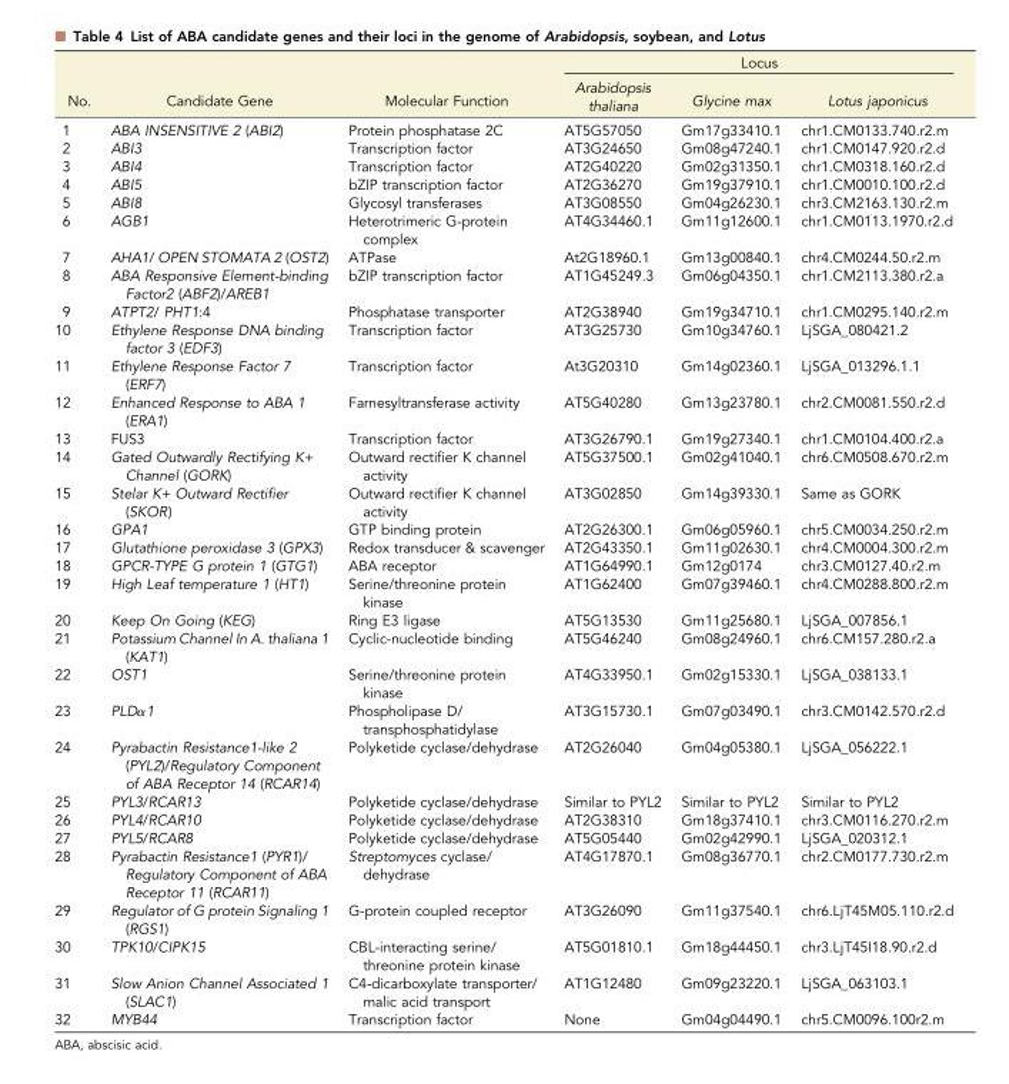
<table><thead><tr><td rowspan="2">No.</td><td rowspan="2">Candidate Gene</td><td rowspan="2">Molecular Function</td><td colspan="3">Locus</td></tr><tr><td>Arabidopsis thaliana</td><td>Glycine max</td><td>Lotus japonicus</td></tr></thead><tbody><tr><td>1</td><td>ABA INSENSITIVE 2 (ABI2)</td><td>Protein phosphatase 2C</td><td>AT5G57050</td><td>Gm17g33410.1</td><td>chr1.CM0133.740.r2.m</td></tr><tr><td>2</td><td>ABI3</td><td>Transcription factor</td><td>AT3G24650</td><td>Gm08g47240.1</td><td>chr1.CM0147.920.r2.d</td></tr><tr><td>3</td><td>ABI4</td><td>Transcription factor</td><td>AT2G40220</td><td>Gm02g31350.1</td><td>chr1.CM0318.160.r2.d</td></tr><tr><td>4</td><td>ABI5</td><td>bZIP transcription factor</td><td>AT2G36270</td><td>Gm19g37910.1</td><td>chr1.CM0010.100.r2.d</td></tr><tr><td>5</td><td>ABI8</td><td>Glycosyl transferases</td><td>AT3G08550</td><td>Gm04g26230.1</td><td>chr3.CM2163.130.r2.m</td></tr><tr><td>6</td><td>AGB1</td><td>Heterotrimeric G-protein complex</td><td>AT4G34460.1</td><td>Gm11g12600.1</td><td>chr1.CM0113.1970.r2.d</td></tr><tr><td>7</td><td>AHA1/ OPEN STOMATA 2 (OST2)</td><td>ATPase</td><td>At2G18960.1</td><td>Gm13g00840.1</td><td>chr4.CM0244.50.r2.m</td></tr><tr><td>8</td><td>ABA Responsive Element-binding Factor2 (ABF2)/AREB1</td><td>bZIP transcription factor</td><td>AT1G45249.3</td><td>Gm06g04350.1</td><td>chr1.CM2113.380.r2.a</td></tr><tr><td>9</td><td>ATPT2/ PHT1:4</td><td>Phosphatase transporter</td><td>AT2G38940</td><td>Gm19g34710.1</td><td>chr1.CM0295.140.r2.m</td></tr><tr><td>10</td><td>Ethylene Response DNA binding factor 3 (EDF3)</td><td>Transcription factor</td><td>AT3G25730</td><td>Gm10g34760.1</td><td>LjSGA_080421.2</td></tr><tr><td>11</td><td>Ethylene Response Factor 7 (ERF7)</td><td>Transcription factor</td><td>At3G20310</td><td>Gm14g02360.1</td><td>LjSGA_013296.1.1</td></tr><tr><td>12</td><td>Enhanced Response to ABA 1 (ERA1)</td><td>Farnesyltransferase activity</td><td>AT5G40280</td><td>Gm13g23780.1</td><td>chr2.CM0081.550.r2.d</td></tr><tr><td>13</td><td>FUS3</td><td>Transcription factor</td><td>AT3G26790.1</td><td>Gm19g27340.1</td><td>chr1.CM0104.400.r2.a</td></tr><tr><td>14</td><td>Gated Outwardly Rectifying K+ Channel (GORK)</td><td>Outward rectifier K channel activity</td><td>AT5G37500.1</td><td>Gm02g41040.1</td><td>chr6.CM0508.670.r2.m</td></tr><tr><td>15</td><td>Stelar K+ Outward Rectifier (SKOR)</td><td>Outward rectifier K channel activity</td><td>AT3G02850</td><td>Gm14g39330.1</td><td>Same as GORK</td></tr><tr><td>16</td><td>GPA1</td><td>GTP binding protein</td><td>AT2G26300.1</td><td>Gm06g05960.1</td><td>chr5.CM0034.250.r2.m</td></tr><tr><td>17</td><td>Glutathione peroxidase 3 (GPX3)</td><td>Redox transducer &amp; scavenger</td><td>AT2G43350.1</td><td>Gm11g02630.1</td><td>chr4.CM0004.300.r2.m</td></tr><tr><td>18</td><td>GPCR-TYPE G protein 1 (GTG1)</td><td>ABA receptor</td><td>AT1G64990.1</td><td>Gm12g0174</td><td>chr3.CM0127.40.r2.m</td></tr><tr><td>19</td><td>High Leaf temperature 1 (HT1)</td><td>Serine/threonine protein kinase</td><td>AT1G62400</td><td>Gm07g39460.1</td><td>chr4.CM0288.800.r2.m</td></tr><tr><td>20</td><td>Keep On Going (KEG)</td><td>Ring E3 ligase</td><td>AT5G13530</td><td>Gm11g25680.1</td><td>LjSGA_007856.1</td></tr><tr><td>21</td><td>Potassium Channel In A. thaliana 1 (KAT1)</td><td>Cyclic-nucleotide binding</td><td>AT5G46240</td><td>Gm08g24960.1</td><td>chr6.CM157.280.r2.a</td></tr><tr><td>22</td><td>OST1</td><td>Serine/threonine protein kinase</td><td>AT4G33950.1</td><td>Gm02g15330.1</td><td>LjSGA_038133.1</td></tr><tr><td>23</td><td>PLDα1</td><td>Phospholipase D/ transphosphatidylase</td><td>AT3G15730.1</td><td>Gm07g03490.1</td><td>chr3.CM0142.570.r2.d</td></tr><tr><td>24</td><td>Pyrabactin Resistance1-like 2 (PYL2)/Regulatory Component of ABA Receptor 14 (RCAR14)</td><td>Polyketide cyclase/dehydrase</td><td>AT2G26040</td><td>Gm04g05380.1</td><td>LjSGA_056222.1</td></tr><tr><td>25</td><td>PYL3/RCAR13</td><td>Polyketide cyclase/dehydrase</td><td>Similar to PYL2</td><td>Similar to PYL2</td><td>Similar to PYL2</td></tr><tr><td>26</td><td>PYL4/RCAR10</td><td>Polyketide cyclase/dehydrase</td><td>AT2G38310</td><td>Gm18g37410.1</td><td>chr3.CM0116.270.r2.m</td></tr><tr><td>27</td><td>PYL5/RCAR8</td><td>Polyketide cyclase/dehydrase</td><td>AT5G05440</td><td>Gm02g42990.1</td><td>LjSGA_020312.1</td></tr><tr><td>28</td><td>Pyrabactin Resistance1 (PYR1)/ Regulatory Component of ABA Receptor 11 (RCAR11)</td><td>Streptomyces cyclase/ dehydrase</td><td>AT4G17870.1</td><td>Gm08g36770.1</td><td>chr2.CM0177.730.r2.m</td></tr><tr><td>29</td><td>Regulator of G protein Signaling 1 (RGS1)</td><td>G-protein coupled receptor</td><td>AT3G26090</td><td>Gm11g37540.1</td><td>chr6.LjT45M05.110.r2.d</td></tr><tr><td>30</td><td>TPK10/CIPK15</td><td>CBL-interacting serine/ threonine protein kinase</td><td>AT5G01810.1</td><td>Gm18g44450.1</td><td>chr3.LjT45I18.90.r2.d</td></tr><tr><td>31</td><td>Slow Anion Channel Associated 1 (SLAC1)</td><td>C4-dicarboxylate transporter/ malic acid transport</td><td>AT1G12480</td><td>Gm09g23220.1</td><td>LjSGA_063103.1</td></tr><tr><td>32</td><td>MYB44</td><td>Transcription factor</td><td>None</td><td>Gm04g04490.1</td><td>chr5.CM0096.100r2.m</td></tr></tbody></table>